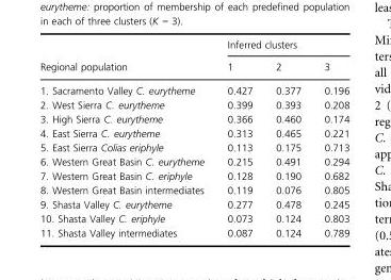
<table><thead><tr><td rowspan="2">Regional population</td><td colspan="3">Inferred clusters</td></tr><tr><td>1</td><td>2</td><td>3</td></tr></thead><tbody><tr><td>1. Sacramento Valley C. eurytheme</td><td>0.427</td><td>0.377</td><td>0.196</td></tr><tr><td>2. West Sierra C. eurytheme</td><td>0.399</td><td>0.393</td><td>0.208</td></tr><tr><td>3. High Sierra C. eurytheme</td><td>0.366</td><td>0.460</td><td>0.174</td></tr><tr><td>4. East Sierra C. eurytheme</td><td>0.313</td><td>0.465</td><td>0.221</td></tr><tr><td>5. East Sierra Colias eriphyle</td><td>0.113</td><td>0.175</td><td>0.713</td></tr><tr><td>6. Western Great Basin C. eurytheme</td><td>0.215</td><td>0.491</td><td>0.294</td></tr><tr><td>7. Western Great Basin C. eriphyle</td><td>0.128</td><td>0.190</td><td>0.682</td></tr><tr><td>8. Western Great Basin intermediates</td><td>0.119</td><td>0.076</td><td>0.805</td></tr><tr><td>9. Shasta Valley C. eurytheme</td><td>0.277</td><td>0.478</td><td>0.245</td></tr><tr><td>10. Shasta Valley C. eriphyle</td><td>0.073</td><td>0.124</td><td>0.803</td></tr><tr><td>11. Shasta Valley intermediates</td><td>0.087</td><td>0.124</td><td>0.789</td></tr></tbody></table>